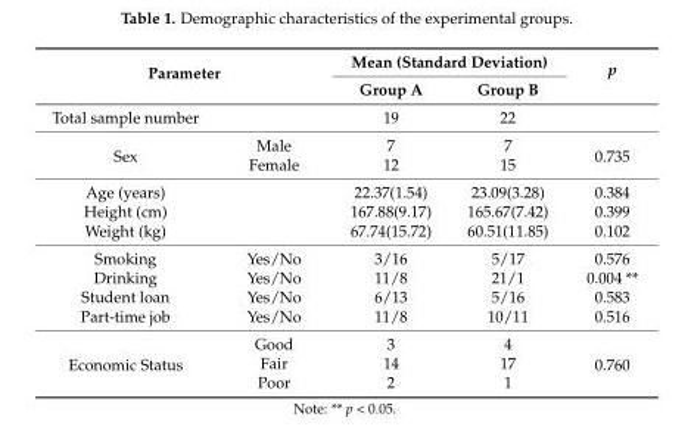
<table><thead><tr><td rowspan="2" colspan="2">Parameter</td><td colspan="2">Mean (Standard Deviation)</td><td rowspan="3">p</td></tr><tr><td rowspan="2">Group A 19</td><td rowspan="2">Group B 22</td></tr><tr><td>Total sample number</td><td></td></tr></thead><tbody><tr><td rowspan="2">Sex</td><td>Male</td><td>7</td><td>7</td><td rowspan="2">0.735</td></tr><tr><td>Female</td><td>12</td><td>15</td></tr><tr><td>Age (years)</td><td></td><td>22.37(1.54)</td><td>23.09(3.28)</td><td>0.384</td></tr><tr><td>Height (cm)</td><td></td><td>167.88(9.17)</td><td>165.67(7.42)</td><td>0.399</td></tr><tr><td>Weight (kg)</td><td></td><td>67.74(15.72)</td><td>60.51(11.85)</td><td>0.102</td></tr><tr><td>Smoking</td><td>Yes/No</td><td>3/16</td><td>5/17</td><td>0.576</td></tr><tr><td>Drinking</td><td>Yes/No</td><td>11/8</td><td>21/1</td><td>0.004 **</td></tr><tr><td>Student loan</td><td>Yes/No</td><td>6/13</td><td>5/16</td><td>0.583</td></tr><tr><td>Part-time job</td><td>Yes/No</td><td>11/8</td><td>10/11</td><td>0.516</td></tr><tr><td rowspan="3">Economic Status</td><td>Good</td><td>3</td><td>4</td><td rowspan="3">0.760</td></tr><tr><td>Fair</td><td>14</td><td>17</td></tr><tr><td>Poor</td><td>2</td><td>1</td></tr></tbody></table>